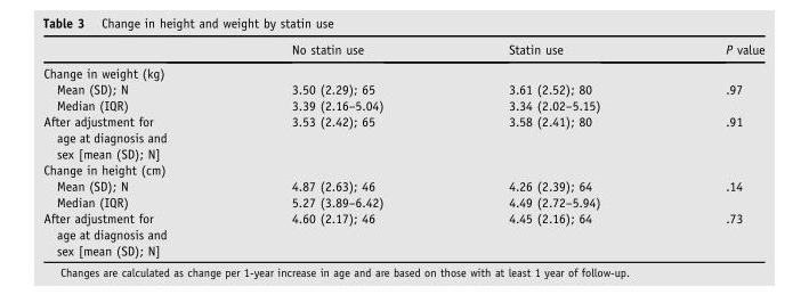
<table><thead><tr><td></td><td>No statin use</td><td>Statin use</td><td>P value</td></tr></thead><tbody><tr><td colspan="4">Change in weight (kg)</td></tr><tr><td>Mean (SD); N</td><td>3.50 (2.29); 65</td><td>3.61 (2.52); 80</td><td rowspan="2">.97</td></tr><tr><td>Median (IQR)</td><td>3.39 (2.16–5.04)</td><td>3.34 (2.02–5.15)</td></tr><tr><td>After adjustment for age at diagnosis and sex [mean (SD); N]</td><td>3.53 (2.42); 65</td><td>3.58 (2.41); 80</td><td>.91</td></tr><tr><td colspan="4">Change in height (cm)</td></tr><tr><td>Mean (SD); N</td><td>4.87 (2.63); 46</td><td>4.26 (2.39); 64</td><td rowspan="2">.14</td></tr><tr><td>Median (IQR)</td><td>5.27 (3.89–6.42)</td><td>4.49 (2.72–5.94)</td></tr><tr><td>After adjustment for age at diagnosis and sex [mean (SD); N]</td><td>4.60 (2.17); 46</td><td>4.45 (2.16); 64</td><td>.73</td></tr></tbody></table>